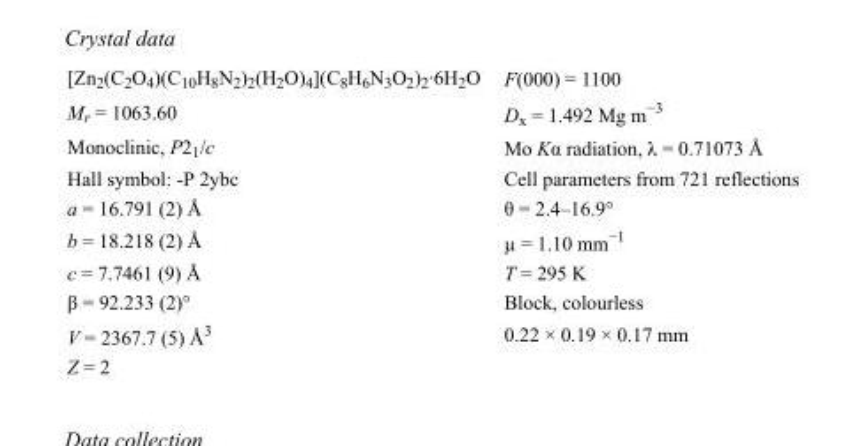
<table><tbody><tr><td>[Zn<sub>2</sub>(C<sub>2</sub>O<sub>4</sub>)(C<sub>10</sub>H<sub>8</sub>N<sub>2</sub>)<sub>2</sub>(H<sub>2</sub>O)<sub>4</sub>](C<sub>8</sub>H<sub>6</sub>N<sub>3</sub>O<sub>2</sub>)<sub>2</sub>·6H<sub>2</sub>O</td><td>F(000) = 1100</td></tr><tr><td>M<sub>r</sub> = 1063.60</td><td>D<sub>x</sub> = 1.492 Mg m<sup>−3</sup></td></tr><tr><td>Monoclinic, P2<sub>1</sub>/c</td><td>Mo Kα radiation, λ = 0.71073 Å</td></tr><tr><td>Hall symbol: -P 2ybc</td><td>Cell parameters from 721 reflections</td></tr><tr><td>a = 16.791 (2) Å</td><td>θ = 2.4–16.9°</td></tr><tr><td>b = 18.218 (2) Å</td><td>µ = 1.10 mm<sup>−1</sup></td></tr><tr><td>c = 7.7461 (9) Å</td><td>T = 295 K</td></tr><tr><td>β = 92.233 (2)°</td><td>Block, colourless</td></tr><tr><td>V = 2367.7 (5) Å<sup>3</sup></td><td>0.22 × 0.19 × 0.17 mm</td></tr><tr><td>Z = 2</td><td></td></tr></tbody></table>